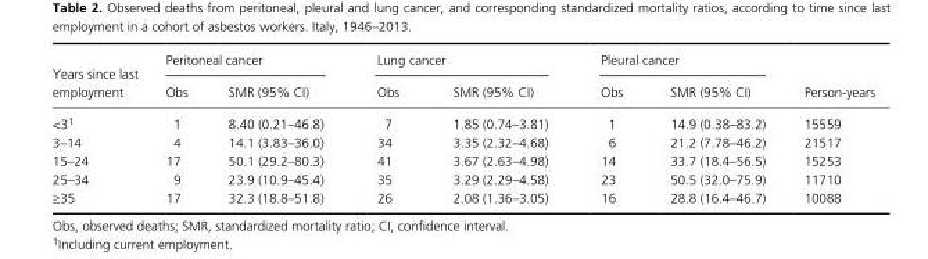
<table><thead><tr><td rowspan="2">Years since last employment</td><td colspan="2">Peritoneal cancer</td><td colspan="2">Lung cancer</td><td colspan="2">Pleural cancer</td><td rowspan="2">Person- years</td></tr><tr><td>Obs</td><td>SMR (95% CI)</td><td>Obs</td><td>SMR (95% CI)</td><td>Obs</td><td>SMR (95% CI)</td></tr></thead><tbody><tr><td>&lt;31</td><td>1</td><td>8.40 (0.21–46.8)</td><td>7</td><td>1.85 (0.74–3.81)</td><td>1</td><td>14.9 (0.38–83.2)</td><td>15559</td></tr><tr><td>3–14</td><td>4</td><td>14.1 (3.83–36.0)</td><td>34</td><td>3.35 (2.32–4.68)</td><td>6</td><td>21.2 (7.78–46.2)</td><td>21517</td></tr><tr><td>15–24</td><td>17</td><td>50.1 (29.2–80.3)</td><td>41</td><td>3.67 (2.63–4.98)</td><td>14</td><td>33.7 (18.4–56.5)</td><td>15253</td></tr><tr><td>25–34</td><td>9</td><td>23.9 (10.9–45.4)</td><td>35</td><td>3.29 (2.29–4.58)</td><td>23</td><td>50.5 (32.0–75.9)</td><td>11710</td></tr><tr><td>≥35</td><td>17</td><td>32.3 (18.8–51.8)</td><td>26</td><td>2.08 (1.36–3.05)</td><td>16</td><td>28.8 (16.4–46.7)</td><td>10088</td></tr></tbody></table>